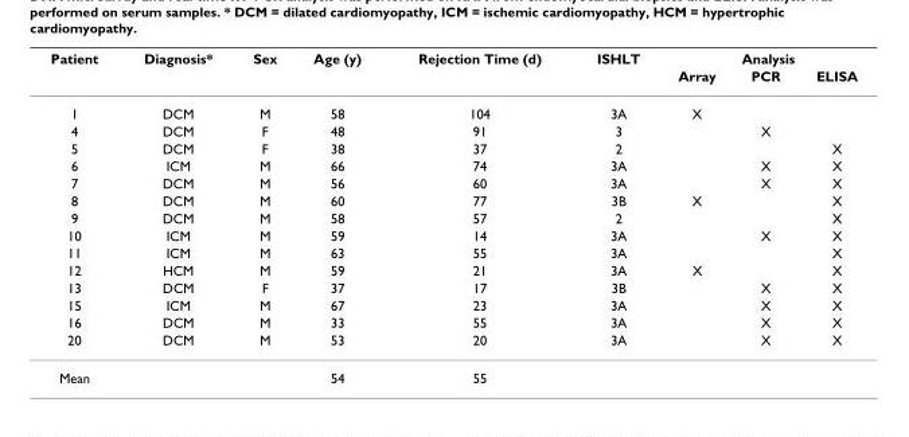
<table><thead><tr><td rowspan="2">Patient</td><td rowspan="2">Diagnosis*</td><td rowspan="2">Sex</td><td rowspan="2">Age (y)</td><td rowspan="2">Rejection Time (d)</td><td rowspan="2">ISHLT</td><td colspan="3">Analysis</td></tr><tr><td>Array</td><td>PCR</td><td>ELISA</td></tr></thead><tbody><tr><td>1</td><td>DCM</td><td>M</td><td>58</td><td>104</td><td>3A</td><td>X</td><td></td><td></td></tr><tr><td>4</td><td>DCM</td><td>F</td><td>48</td><td>91</td><td>3</td><td></td><td>X</td><td></td></tr><tr><td>5</td><td>DCM</td><td>F</td><td>38</td><td>37</td><td>2</td><td></td><td></td><td>X</td></tr><tr><td>6</td><td>ICM</td><td>M</td><td>66</td><td>74</td><td>3A</td><td></td><td>X</td><td>X</td></tr><tr><td>7</td><td>DCM</td><td>M</td><td>56</td><td>60</td><td>3A</td><td></td><td>X</td><td>X</td></tr><tr><td>8</td><td>DCM</td><td>M</td><td>60</td><td>77</td><td>3B</td><td>X</td><td></td><td>X</td></tr><tr><td>9</td><td>DCM</td><td>M</td><td>58</td><td>57</td><td>2</td><td></td><td></td><td>X</td></tr><tr><td>10</td><td>ICM</td><td>M</td><td>59</td><td>14</td><td>3A</td><td></td><td>X</td><td>X</td></tr><tr><td>11</td><td>ICM</td><td>M</td><td>63</td><td>55</td><td>3A</td><td></td><td></td><td>X</td></tr><tr><td>12</td><td>HCM</td><td>M</td><td>59</td><td>21</td><td>3A</td><td>X</td><td></td><td>X</td></tr><tr><td>13</td><td>DCM</td><td>F</td><td>37</td><td>17</td><td>3B</td><td></td><td>X</td><td>X</td></tr><tr><td>15</td><td>ICM</td><td>M</td><td>67</td><td>23</td><td>3A</td><td></td><td>X</td><td>X</td></tr><tr><td>16</td><td>DCM</td><td>M</td><td>33</td><td>55</td><td>3A</td><td></td><td>X</td><td>X</td></tr><tr><td>20</td><td>DCM</td><td>M</td><td>53</td><td>20</td><td>3A</td><td></td><td>X</td><td>X</td></tr><tr><td>Mean</td><td></td><td></td><td>54</td><td>55</td><td></td><td></td><td></td><td></td></tr></tbody></table>